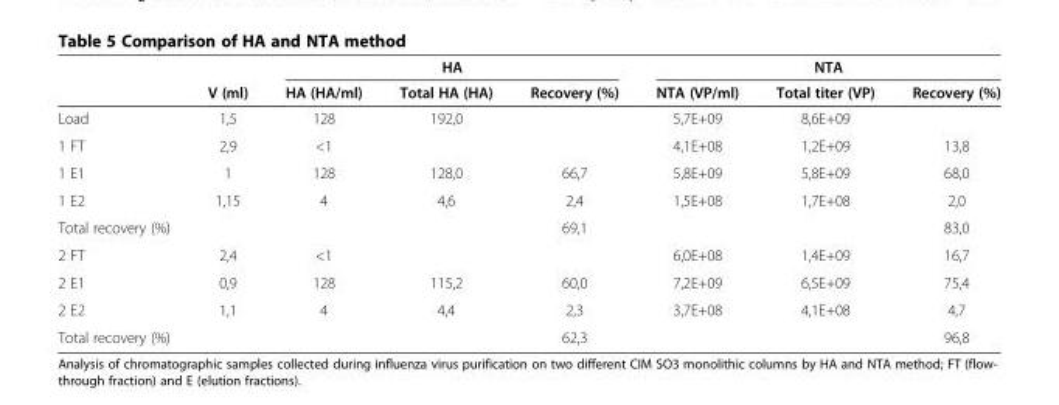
<table><thead><tr><td rowspan="2"></td><td rowspan="2">V (ml)</td><td colspan="3">HA</td><td rowspan="2">NTA (VP/ml)</td><td rowspan="2">NTA Total titer (VP)</td><td rowspan="2">Recovery (%)</td></tr><tr><td>HA (HA/ml)</td><td>Total HA (HA)</td><td>Recovery (%)</td></tr></thead><tbody><tr><td>Load</td><td>1,5</td><td>128</td><td>192,0</td><td></td><td>5,7E+09</td><td>8,6E+09</td><td></td></tr><tr><td>1 FT</td><td>2,9</td><td>&lt;1</td><td></td><td></td><td>4,1E+08</td><td>1,2E+09</td><td>13,8</td></tr><tr><td>1 E1</td><td>1</td><td>128</td><td>128,0</td><td>66,7</td><td>5,8E+09</td><td>5,8E+09</td><td>68,0</td></tr><tr><td>1 E2</td><td>1,15</td><td>4</td><td>4,6</td><td>2,4</td><td>1,5E+08</td><td>1,7E+08</td><td>2,0</td></tr><tr><td>Total recovery (%)</td><td></td><td></td><td></td><td>69,1</td><td></td><td></td><td>83,0</td></tr><tr><td>2 FT</td><td>2,4</td><td>&lt;1</td><td></td><td></td><td>6,0E+08</td><td>1,4E+09</td><td>16,7</td></tr><tr><td>2 E1</td><td>0,9</td><td>128</td><td>115,2</td><td>60,0</td><td>7,2E+09</td><td>6,5E+09</td><td>75,4</td></tr><tr><td>2 E2</td><td>1,1</td><td>4</td><td>4,4</td><td>2,3</td><td>3,7E+08</td><td>4,1E+08</td><td>4,7</td></tr><tr><td>Total recovery (%)</td><td></td><td></td><td></td><td>62,3</td><td></td><td></td><td>96,8</td></tr></tbody></table>